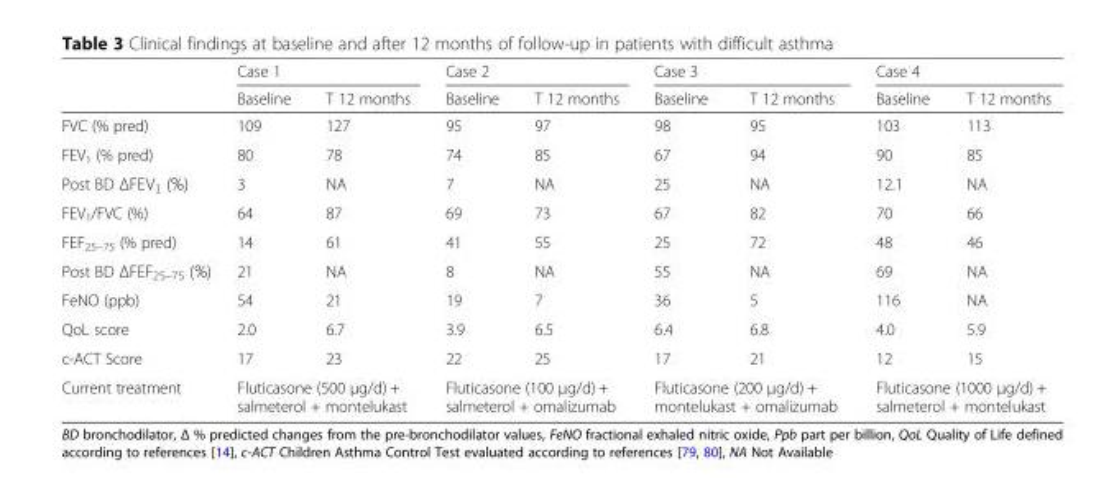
<table><thead><tr><td rowspan="2"></td><td colspan="2">Case 1</td><td colspan="2">Case 2</td><td colspan="2">Case 3</td><td colspan="2">Case 4</td></tr><tr><td>Baseline</td><td>T 12 months</td><td>Baseline</td><td>T 12 months</td><td>Baseline</td><td>T 12 months</td><td>Baseline</td><td>T 12 months</td></tr></thead><tbody><tr><td>FVC (% pred)</td><td>109</td><td>127</td><td>95</td><td>97</td><td>98</td><td>95</td><td>103</td><td>113</td></tr><tr><td>FEV<sub>1</sub> (% pred)</td><td>80</td><td>78</td><td>74</td><td>85</td><td>67</td><td>94</td><td>90</td><td>85</td></tr><tr><td>Post BD ΔFEV<sub>1</sub> (%)</td><td>3</td><td>NA</td><td>7</td><td>NA</td><td>25</td><td>NA</td><td>12.1</td><td>NA</td></tr><tr><td>FEV<sub>1</sub>/FVC (%)</td><td>64</td><td>87</td><td>69</td><td>73</td><td>67</td><td>82</td><td>70</td><td>66</td></tr><tr><td>FEF<sub>25–75</sub> (% pred)</td><td>14</td><td>61</td><td>41</td><td>55</td><td>25</td><td>72</td><td>48</td><td>46</td></tr><tr><td>Post BD ΔFEF<sub>25–75</sub> (%)</td><td>21</td><td>NA</td><td>8</td><td>NA</td><td>55</td><td>NA</td><td>69</td><td>NA</td></tr><tr><td>FeNO (ppb)</td><td>54</td><td>21</td><td>19</td><td>7</td><td>36</td><td>5</td><td>116</td><td>NA</td></tr><tr><td>QoL score</td><td>2.0</td><td>6.7</td><td>3.9</td><td>6.5</td><td>6.4</td><td>6.8</td><td>4.0</td><td>5.9</td></tr><tr><td>c-ACT Score</td><td>17</td><td>23</td><td>22</td><td>25</td><td>17</td><td>21</td><td>12</td><td>15</td></tr><tr><td>Current treatment</td><td colspan="2">Fluticasone (500 μg/d) + salmeterol + montelukast</td><td colspan="2">Fluticasone (100 μg/d) + salmeterol + omalizumab</td><td colspan="2">Fluticasone (200 μg/d) + montelukast + omalizumab</td><td colspan="2">Fluticasone (1000 μg/d) + salmeterol + montelukast</td></tr></tbody></table>